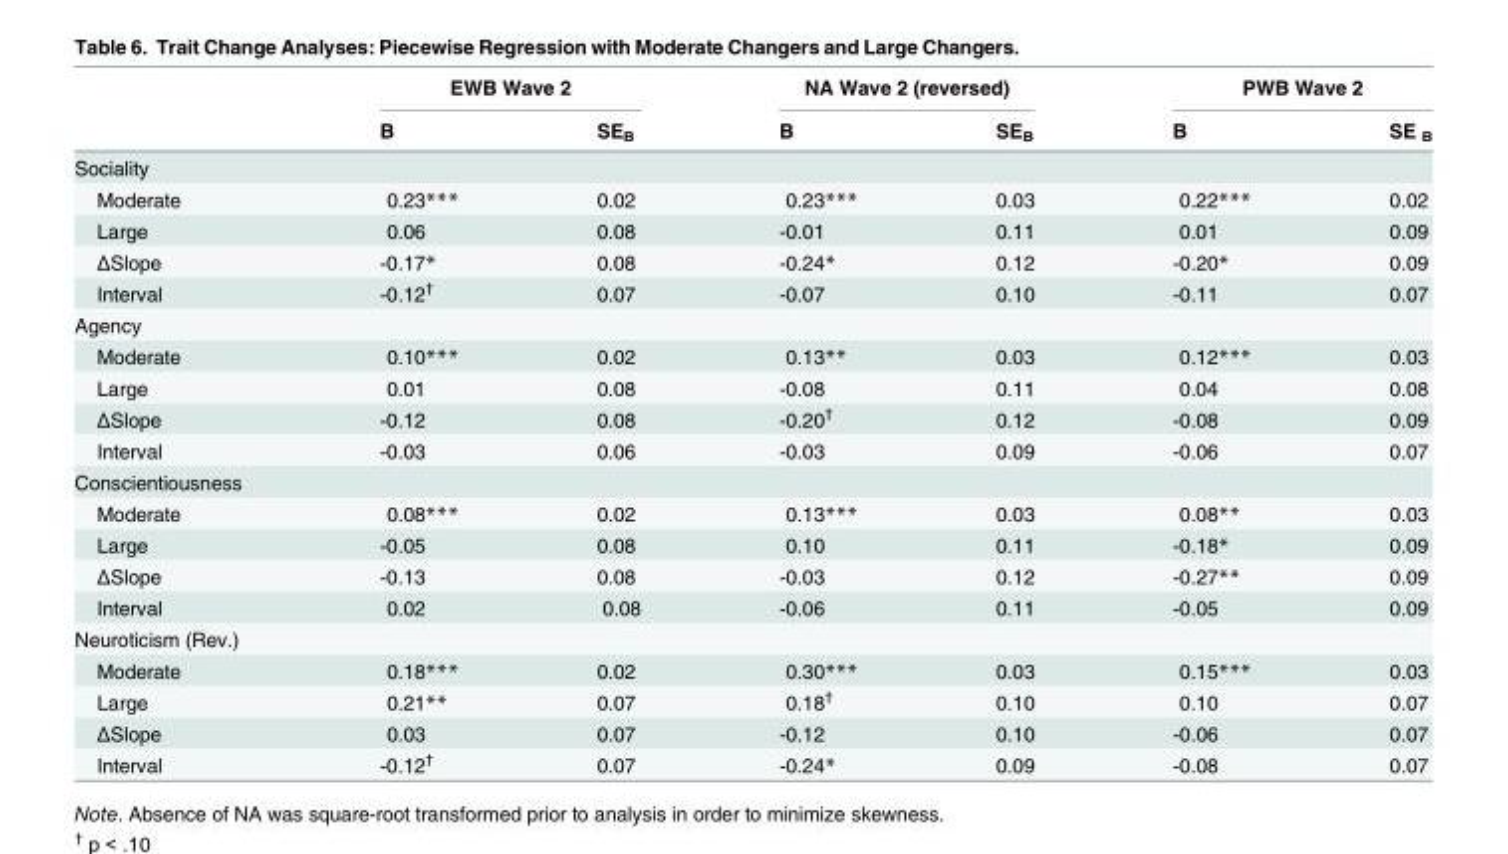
<table><thead><tr><td rowspan="2"></td><td colspan="2">EWB Wave 2</td><td colspan="2">NA Wave 2 (reversed)</td><td colspan="2">PWB Wave 2</td></tr><tr><td>B</td><td>SE<sub>B</sub></td><td>B</td><td>SE<sub>B</sub></td><td>B</td><td>SE <sub>B</sub></td></tr></thead><tbody><tr><td colspan="7">Sociality</td></tr><tr><td>Moderate</td><td>0.23***</td><td>0.02</td><td>0.23***</td><td>0.03</td><td>0.22***</td><td>0.02</td></tr><tr><td>Large</td><td>0.06</td><td>0.08</td><td>-0.01</td><td>0.11</td><td>0.01</td><td>0.09</td></tr><tr><td>ΔSlope</td><td>-0.17*</td><td>0.08</td><td>-0.24*</td><td>0.12</td><td>-0.20*</td><td>0.09</td></tr><tr><td>Interval</td><td>-0.12<sup>†</sup></td><td>0.07</td><td>-0.07</td><td>0.10</td><td>-0.11</td><td>0.07</td></tr><tr><td colspan="7">Agency</td></tr><tr><td>Moderate</td><td>0.10***</td><td>0.02</td><td>0.13**</td><td>0.03</td><td>0.12***</td><td>0.03</td></tr><tr><td>Large</td><td>0.01</td><td>0.08</td><td>-0.08</td><td>0.11</td><td>0.04</td><td>0.08</td></tr><tr><td>ΔSlope</td><td>-0.12</td><td>0.08</td><td>-0.20<sup>†</sup></td><td>0.12</td><td>-0.08</td><td>0.09</td></tr><tr><td>Interval</td><td>-0.03</td><td>0.06</td><td>-0.03</td><td>0.09</td><td>-0.06</td><td>0.07</td></tr><tr><td colspan="7">Conscientiousness</td></tr><tr><td>Moderate</td><td>0.08***</td><td>0.02</td><td>0.13***</td><td>0.03</td><td>0.08**</td><td>0.03</td></tr><tr><td>Large</td><td>-0.05</td><td>0.08</td><td>0.10</td><td>0.11</td><td>-0.18*</td><td>0.09</td></tr><tr><td>ΔSlope</td><td>-0.13</td><td>0.08</td><td>-0.03</td><td>0.12</td><td>-0.27**</td><td>0.09</td></tr><tr><td>Interval</td><td>0.02</td><td>0.08</td><td>-0.06</td><td>0.11</td><td>-0.05</td><td>0.09</td></tr><tr><td colspan="7">Neuroticism (Rev.)</td></tr><tr><td>Moderate</td><td>0.18***</td><td>0.02</td><td>0.30***</td><td>0.03</td><td>0.15***</td><td>0.03</td></tr><tr><td>Large</td><td>0.21**</td><td>0.07</td><td>0.18<sup>†</sup></td><td>0.10</td><td>0.10</td><td>0.07</td></tr><tr><td>ΔSlope</td><td>0.03</td><td>0.07</td><td>-0.12</td><td>0.10</td><td>-0.06</td><td>0.07</td></tr><tr><td>Interval</td><td>-0.12<sup>†</sup></td><td>0.07</td><td>-0.24*</td><td>0.09</td><td>-0.08</td><td>0.07</td></tr></tbody></table>